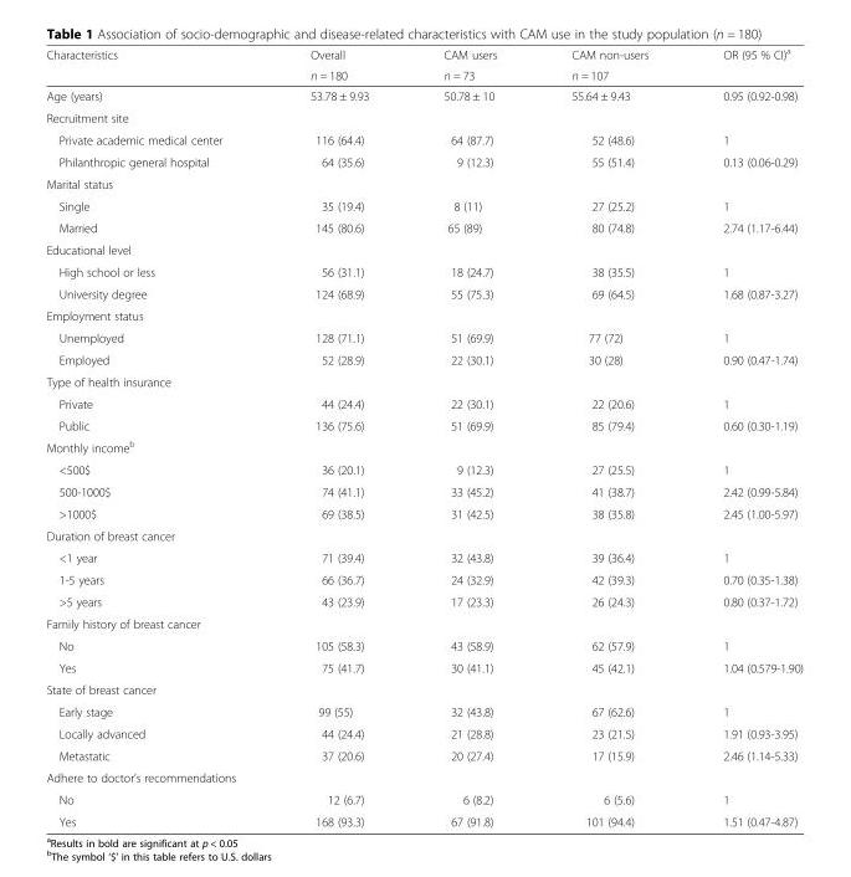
<table><thead><tr><td rowspan="2">Characteristics</td><td rowspan="2">Overall n = 180</td><td rowspan="2">CAM users n = 73</td><td rowspan="2">CAM non-users n = 107</td><td rowspan="2">OR (95 % CI)<sup>a</sup></td></tr><tr></tr></thead><tbody><tr><td>Age (years)</td><td>53.78 ± 9.93</td><td>50.78 ± 10</td><td>55.64 ± 9.43</td><td>0.95 (0.92-0.98)</td></tr><tr><td colspan="5">Recruitment site</td></tr><tr><td>Private academic medical center</td><td>116 (64.4)</td><td>64 (87.7)</td><td>52 (48.6)</td><td>1</td></tr><tr><td>Philanthropic general hospital</td><td>64 (35.6)</td><td>9 (12.3)</td><td>55 (51.4)</td><td>0.13 (0.06-0.29)</td></tr><tr><td colspan="5">Marital status</td></tr><tr><td>Single</td><td>35 (19.4)</td><td>8 (11)</td><td>27 (25.2)</td><td>1</td></tr><tr><td>Married</td><td>145 (80.6)</td><td>65 (89)</td><td>80 (74.8)</td><td>2.74 (1.17-6.44)</td></tr><tr><td colspan="5">Educational level</td></tr><tr><td>High school or less</td><td>56 (31.1)</td><td>18 (24.7)</td><td>38 (35.5)</td><td>1</td></tr><tr><td>University degree</td><td>124 (68.9)</td><td>55 (75.3)</td><td>69 (64.5)</td><td>1.68 (0.87-3.27)</td></tr><tr><td colspan="5">Employment status</td></tr><tr><td>Unemployed</td><td>128 (71.1)</td><td>51 (69.9)</td><td>77 (72)</td><td>1</td></tr><tr><td>Employed</td><td>52 (28.9)</td><td>22 (30.1)</td><td>30 (28)</td><td>0.90 (0.47-1.74)</td></tr><tr><td colspan="5">Type of health insurance</td></tr><tr><td>Private</td><td>44 (24.4)</td><td>22 (30.1)</td><td>22 (20.6)</td><td>1</td></tr><tr><td>Public</td><td>136 (75.6)</td><td>51 (69.9)</td><td>85 (79.4)</td><td>0.60 (0.30-1.19)</td></tr><tr><td colspan="5">Monthly income<sup>b</sup></td></tr><tr><td>&lt;500$</td><td>36 (20.1)</td><td>9 (12.3)</td><td>27 (25.5)</td><td>1</td></tr><tr><td>500-1000$</td><td>74 (41.1)</td><td>33 (45.2)</td><td>41 (38.7)</td><td>2.42 (0.99-5.84)</td></tr><tr><td>&gt;1000$</td><td>69 (38.5)</td><td>31 (42.5)</td><td>38 (35.8)</td><td>2.45 (1.00-5.97)</td></tr><tr><td colspan="5">Duration of breast cancer</td></tr><tr><td>&lt;1 year</td><td>71 (39.4)</td><td>32 (43.8)</td><td>39 (36.4)</td><td>1</td></tr><tr><td>1-5 years</td><td>66 (36.7)</td><td>24 (32.9)</td><td>42 (39.3)</td><td>0.70 (0.35-1.38)</td></tr><tr><td>&gt;5 years</td><td>43 (23.9)</td><td>17 (23.3)</td><td>26 (24.3)</td><td>0.80 (0.37-1.72)</td></tr><tr><td colspan="5">Family history of breast cancer</td></tr><tr><td>No</td><td>105 (58.3)</td><td>43 (58.9)</td><td>62 (57.9)</td><td>1</td></tr><tr><td>Yes</td><td>75 (41.7)</td><td>30 (41.1)</td><td>45 (42.1)</td><td>1.04 (0.579-1.90)</td></tr><tr><td colspan="5">State of breast cancer</td></tr><tr><td>Early stage</td><td>99 (55)</td><td>32 (43.8)</td><td>67 (62.6)</td><td>1</td></tr><tr><td>Locally advanced</td><td>44 (24.4)</td><td>21 (28.8)</td><td>23 (21.5)</td><td>1.91 (0.93-3.95)</td></tr><tr><td>Metastatic</td><td>37 (20.6)</td><td>20 (27.4)</td><td>17 (15.9)</td><td>2.46 (1.14-5.33)</td></tr><tr><td colspan="5">Adhere to doctor’s recommendations</td></tr><tr><td>No</td><td>12 (6.7)</td><td>6 (8.2)</td><td>6 (5.6)</td><td>1</td></tr><tr><td>Yes</td><td>168 (93.3)</td><td>67 (91.8)</td><td>101 (94.4)</td><td>1.51 (0.47-4.87)</td></tr></tbody></table>